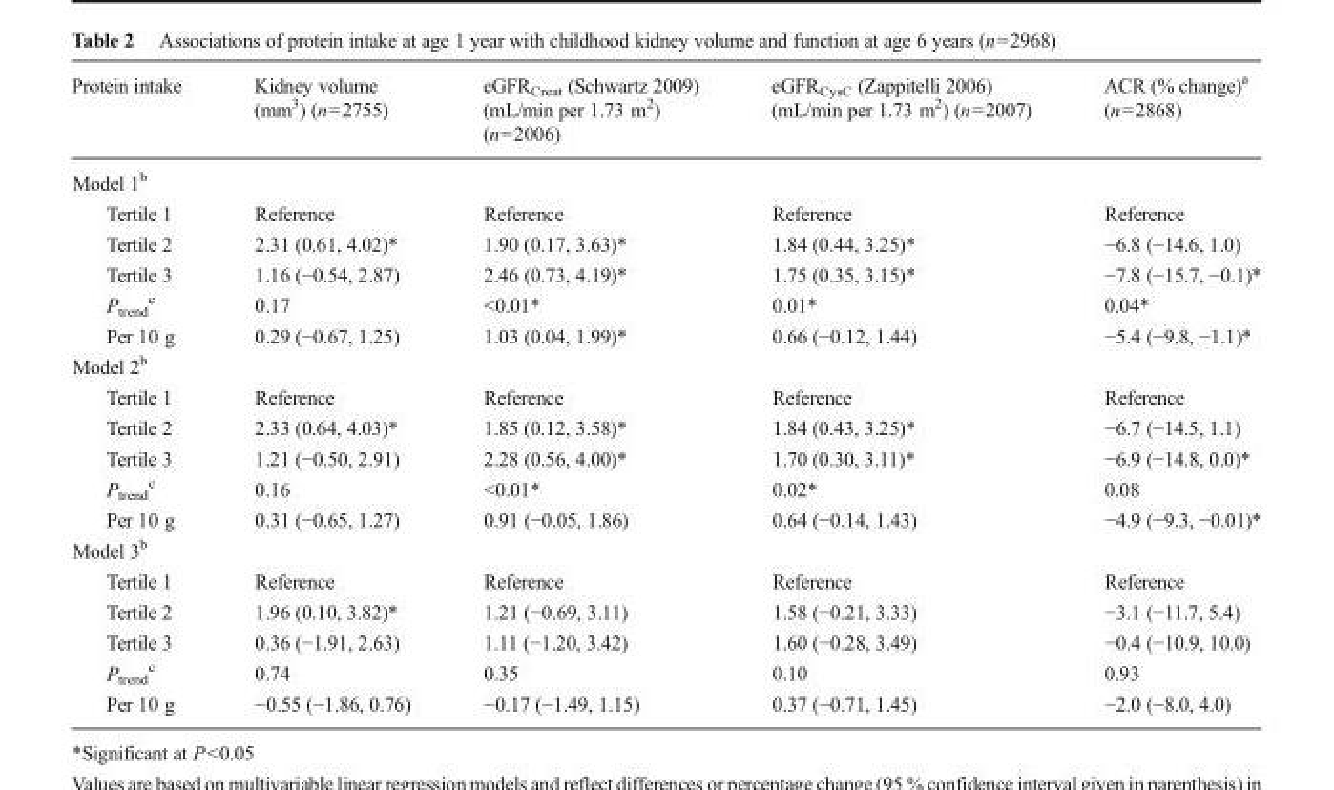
<table><thead><tr><td>Protein intake</td><td>Kidney volume (mm<sup>3</sup>) (n=2755)</td><td>eGFR<sub>Creat</sub> (Schwartz 2009) (mL/min per 1.73 m<sup>2</sup>) (n=2006)</td><td>eGFR<sub>CysC</sub> (Zappitelli 2006) (mL/min per 1.73 m<sup>2</sup>) (n=2007)</td><td>ACR (% change)<sup>a</sup> (n=2868)</td></tr></thead><tbody><tr><td colspan="5">Model 1<sup>b</sup></td></tr><tr><td>Tertile 1</td><td>Reference</td><td>Reference</td><td>Reference</td><td>Reference</td></tr><tr><td>Tertile 2</td><td>2.31 (0.61, 4.02)*</td><td>1.90 (0.17, 3.63)*</td><td>1.84 (0.44, 3.25)*</td><td>−6.8 (−14.6, 1.0)</td></tr><tr><td>Tertile 3</td><td>1.16 (−0.54, 2.87)</td><td>2.46 (0.73, 4.19)*</td><td>1.75 (0.35, 3.15)*</td><td>−7.8 (−15.7, −0.1)*</td></tr><tr><td>P<sub>trend</sub> <sup>c</sup></td><td>0.17</td><td>&lt;0.01*</td><td>0.01*</td><td>0.04*</td></tr><tr><td>Per 10 g</td><td>0.29 (−0.67, 1.25)</td><td>1.03 (0.04, 1.99)*</td><td>0.66 (−0.12, 1.44)</td><td>−5.4 (−9.8, −1.1)*</td></tr><tr><td colspan="5">Model 2<sup>b</sup></td></tr><tr><td>Tertile 1</td><td>Reference</td><td>Reference</td><td>Reference</td><td>Reference</td></tr><tr><td>Tertile 2</td><td>2.33 (0.64, 4.03)*</td><td>1.85 (0.12, 3.58)*</td><td>1.84 (0.43, 3.25)*</td><td>−6.7 (−14.5, 1.1)</td></tr><tr><td>Tertile 3</td><td>1.21 (−0.50, 2.91)</td><td>2.28 (0.56, 4.00)*</td><td>1.70 (0.30, 3.11)*</td><td>−6.9 (−14.8, 0.0)*</td></tr><tr><td>P<sub>trend</sub> <sup>c</sup></td><td>0.16</td><td>&lt;0.01*</td><td>0.02*</td><td>0.08</td></tr><tr><td>Per 10 g</td><td>0.31 (−0.65, 1.27)</td><td>0.91 (−0.05, 1.86)</td><td>0.64 (−0.14, 1.43)</td><td>−4.9 (−9.3, −0.01)*</td></tr><tr><td colspan="5">Model 3<sup>b</sup></td></tr><tr><td>Tertile 1</td><td>Reference</td><td>Reference</td><td>Reference</td><td>Reference</td></tr><tr><td>Tertile 2</td><td>1.96 (0.10, 3.82)*</td><td>1.21 (−0.69, 3.11)</td><td>1.58 (−0.21, 3.33)</td><td>−3.1 (−11.7, 5.4)</td></tr><tr><td>Tertile 3</td><td>0.36 (−1.91, 2.63)</td><td>1.11 (−1.20, 3.42)</td><td>1.60 (−0.28, 3.49)</td><td>−0.4 (−10.9, 10.0)</td></tr><tr><td>P<sub>trend</sub> <sup>c</sup></td><td>0.74</td><td>0.35</td><td>0.10</td><td>0.93</td></tr><tr><td>Per 10 g</td><td>−0.55 (−1.86, 0.76)</td><td>−0.17 (−1.49, 1.15)</td><td>0.37 (−0.71, 1.45)</td><td>−2.0 (−8.0, 4.0)</td></tr></tbody></table>